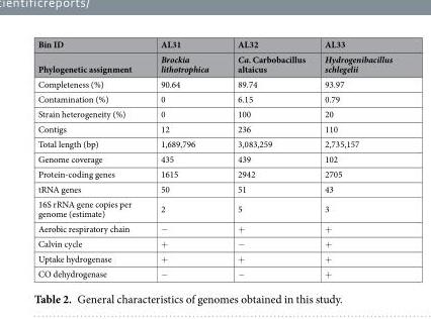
<table><thead><tr><td rowspan="2">Bin ID Phylogenetic assignment</td><td rowspan="2">AL31 Brockia lithotrophica</td><td rowspan="2">AL32 Ca. Carbobacillus altaicus</td><td rowspan="2">AL33 Hydrogenibacillus schlegelii</td></tr><tr></tr></thead><tbody><tr><td>Completeness (%)</td><td>90.64</td><td>89.74</td><td>93.97</td></tr><tr><td>Contamination (%)</td><td>0</td><td>6.15</td><td>0.79</td></tr><tr><td>Strain heterogeneity (%)</td><td>0</td><td>100</td><td>20</td></tr><tr><td>Contigs</td><td>12</td><td>236</td><td>110</td></tr><tr><td>Total length (bp)</td><td>1,689,796</td><td>3,083,259</td><td>2,735,157</td></tr><tr><td>Genome coverage</td><td>435</td><td>439</td><td>102</td></tr><tr><td>Protein-coding genes</td><td>1615</td><td>2942</td><td>2705</td></tr><tr><td>tRNA genes</td><td>50</td><td>51</td><td>43</td></tr><tr><td>16S rRNA gene copies per genome (estimate)</td><td>2</td><td>5</td><td>3</td></tr><tr><td>Aerobic respiratory chain</td><td>−</td><td>+</td><td>+</td></tr><tr><td>Calvin cycle</td><td>+</td><td>−</td><td>+</td></tr><tr><td>Uptake hydrogenase</td><td>+</td><td>+</td><td>+</td></tr><tr><td>CO dehydrogenase</td><td>−</td><td>−</td><td>+</td></tr></tbody></table>